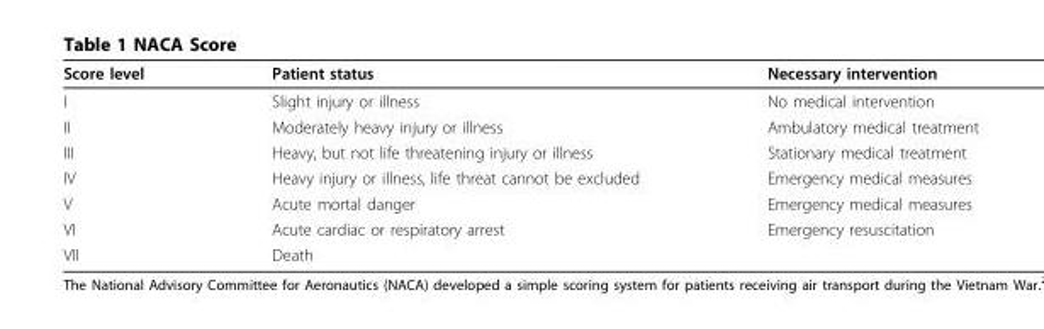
<table><thead><tr><td>Score level</td><td>Patient status</td><td>Necessary intervention</td></tr></thead><tbody><tr><td>I</td><td>Slight injury or illness</td><td>No medical intervention</td></tr><tr><td>II</td><td>Moderately heavy injury or illness</td><td>Ambulatory medical treatment</td></tr><tr><td>III</td><td>Heavy, but not life threatening injury or illness</td><td>Stationary medical treatment</td></tr><tr><td>IV</td><td>Heavy injury or illness, life threat cannot be excluded</td><td>Emergency medical measures</td></tr><tr><td>V</td><td>Acute mortal danger</td><td>Emergency medical measures</td></tr><tr><td>VI</td><td>Acute cardiac or respiratory arrest</td><td>Emergency resuscitation</td></tr><tr><td>VII</td><td>Death</td><td></td></tr></tbody></table>